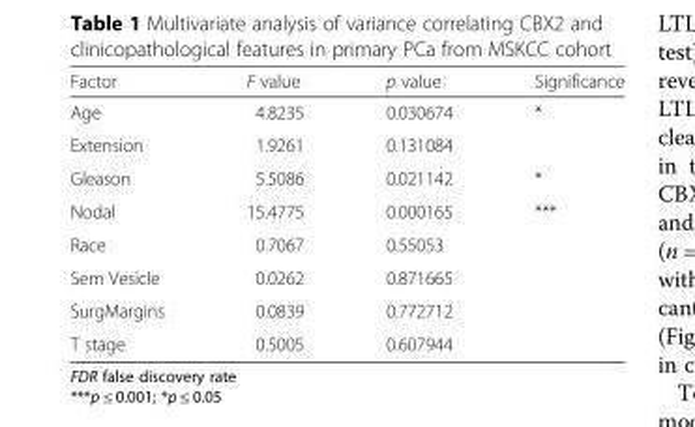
<table><thead><tr><td>Factor</td><td>F value</td><td>p value</td><td>Significance</td></tr></thead><tbody><tr><td>Age</td><td>4.8235</td><td>0.030674</td><td>*</td></tr><tr><td>Extension</td><td>1.9261</td><td>0.131084</td><td></td></tr><tr><td>Gleason</td><td>5.5086</td><td>0.021142</td><td>*</td></tr><tr><td>Nodal</td><td>15.4775</td><td>0.000165</td><td>***</td></tr><tr><td>Race</td><td>0.7067</td><td>0.55053</td><td></td></tr><tr><td>Sem Vesicle</td><td>0.0262</td><td>0.871665</td><td></td></tr><tr><td>SurgMargins</td><td>0.0839</td><td>0.772712</td><td></td></tr><tr><td>T stage</td><td>0.5005</td><td>0.607944</td><td></td></tr></tbody></table>